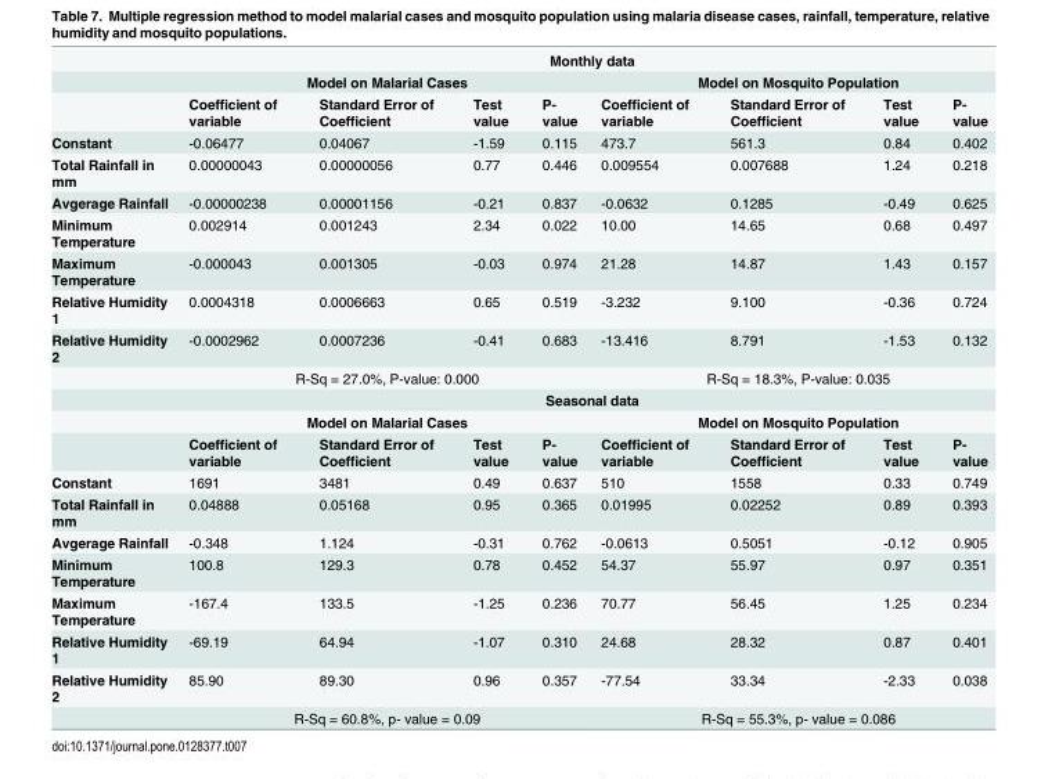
<table><thead><tr><td rowspan="3"></td><td colspan="8">Monthly data</td></tr><tr><td colspan="4">Model on Malarial Cases</td><td colspan="4">Model on Mosquito Population</td></tr><tr><td>Coefficient of variable</td><td>Standard Error of Coefficient</td><td>Test value</td><td>P- value</td><td>Coefficient of variable</td><td>Standard Error of Coefficient</td><td>Test value</td><td>P- value</td></tr></thead><tbody><tr><td>Constant</td><td>-0.06477</td><td>0.04067</td><td>-1.59</td><td>0.115</td><td>473.7</td><td>561.3</td><td>0.84</td><td>0.402</td></tr><tr><td>Total Rainfall in mm</td><td>0.00000043</td><td>0.00000056</td><td>0.77</td><td>0.446</td><td>0.009554</td><td>0.007688</td><td>1.24</td><td>0.218</td></tr><tr><td>Avgerage Rainfall</td><td>-0.00000238</td><td>0.00001156</td><td>-0.21</td><td>0.837</td><td>-0.0632</td><td>0.1285</td><td>-0.49</td><td>0.625</td></tr><tr><td>Minimum Temperature</td><td>0.002914</td><td>0.001243</td><td>2.34</td><td>0.022</td><td>10.00</td><td>14.65</td><td>0.68</td><td>0.497</td></tr><tr><td>Maximum Temperature</td><td>-0.000043</td><td>0.001305</td><td>-0.03</td><td>0.974</td><td>21.28</td><td>14.87</td><td>1.43</td><td>0.157</td></tr><tr><td>Relative Humidity 1</td><td>0.0004318</td><td>0.0006663</td><td>0.65</td><td>0.519</td><td>-3.232</td><td>9.100</td><td>-0.36</td><td>0.724</td></tr><tr><td rowspan="5">Relative Humidity 2</td><td>-0.0002962</td><td>0.0007236</td><td>-0.41</td><td>0.683</td><td>-13.416</td><td>8.791</td><td>-1.53</td><td>0.132</td></tr><tr><td colspan="4">R-Sq = 27.0%, P-value: 0.000</td><td colspan="4">R-Sq = 18.3%, P-value: 0.035</td></tr><tr><td colspan="8">Seasonal data</td></tr><tr><td colspan="4">Model on Malarial Cases</td><td colspan="4">Model on Mosquito Population</td></tr><tr><td>Coefficient of variable</td><td>Standard Error of Coefficient</td><td>Test value</td><td>P- value</td><td>Coefficient of variable</td><td>Standard Error of Coefficient</td><td>Test value</td><td>P- value</td></tr><tr><td>Constant</td><td>1691</td><td>3481</td><td>0.49</td><td>0.637</td><td>510</td><td>1558</td><td>0.33</td><td>0.749</td></tr><tr><td>Total Rainfall in mm</td><td>0.04888</td><td>0.05168</td><td>0.95</td><td>0.365</td><td>0.01995</td><td>0.02252</td><td>0.89</td><td>0.393</td></tr><tr><td>Avgerage Rainfall</td><td>-0.348</td><td>1.124</td><td>-0.31</td><td>0.762</td><td>-0.0613</td><td>0.5051</td><td>-0.12</td><td>0.905</td></tr><tr><td>Minimum Temperature</td><td>100.8</td><td>129.3</td><td>0.78</td><td>0.452</td><td>54.37</td><td>55.97</td><td>0.97</td><td>0.351</td></tr><tr><td>Maximum Temperature</td><td>-167.4</td><td>133.5</td><td>-1.25</td><td>0.236</td><td>70.77</td><td>56.45</td><td>1.25</td><td>0.234</td></tr><tr><td>Relative Humidity 1</td><td>-69.19</td><td>64.94</td><td>-1.07</td><td>0.310</td><td>24.68</td><td>28.32</td><td>0.87</td><td>0.401</td></tr><tr><td rowspan="2">Relative Humidity 2</td><td>85.90</td><td>89.30</td><td>0.96</td><td>0.357</td><td>-77.54</td><td>33.34</td><td>-2.33</td><td>0.038</td></tr><tr><td colspan="4">R-Sq = 60.8%, p- value = 0.09</td><td colspan="4">R-Sq = 55.3%, p- value = 0.086</td></tr></tbody></table>